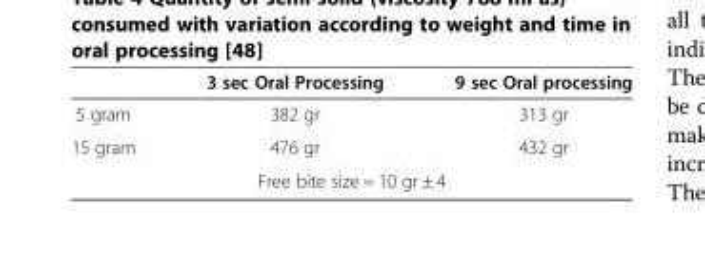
<table><thead><tr><td></td><td>3 sec Oral Processing</td><td>9 sec Oral processing</td></tr></thead><tbody><tr><td>5 gram</td><td>382 gr</td><td>313 gr</td></tr><tr><td>15 gram</td><td>476 gr</td><td>432 gr</td></tr><tr><td colspan="3">Free bite size = 10 gr ± 4</td></tr></tbody></table>